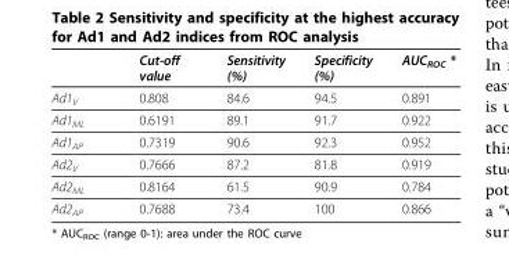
<table><thead><tr><td></td><td>Cut-off value</td><td>Sensitivity (%)</td><td>Specificity (%)</td><td>AUC<sub>ROC</sub> *</td></tr></thead><tbody><tr><td>Ad1<sub>V</sub></td><td>0.808</td><td>84.6</td><td>94.5</td><td>0.891</td></tr><tr><td>Ad1<sub>ML</sub></td><td>0.6191</td><td>89.1</td><td>91.7</td><td>0.922</td></tr><tr><td>Ad1<sub>AP</sub></td><td>0.7319</td><td>90.6</td><td>92.3</td><td>0.952</td></tr><tr><td>Ad2<sub>V</sub></td><td>0.7666</td><td>87.2</td><td>81.8</td><td>0.919</td></tr><tr><td>Ad2<sub>ML</sub></td><td>0.8164</td><td>61.5</td><td>90.9</td><td>0.784</td></tr><tr><td>Ad2<sub>AP</sub></td><td>0.7688</td><td>73.4</td><td>100</td><td>0.866</td></tr></tbody></table>